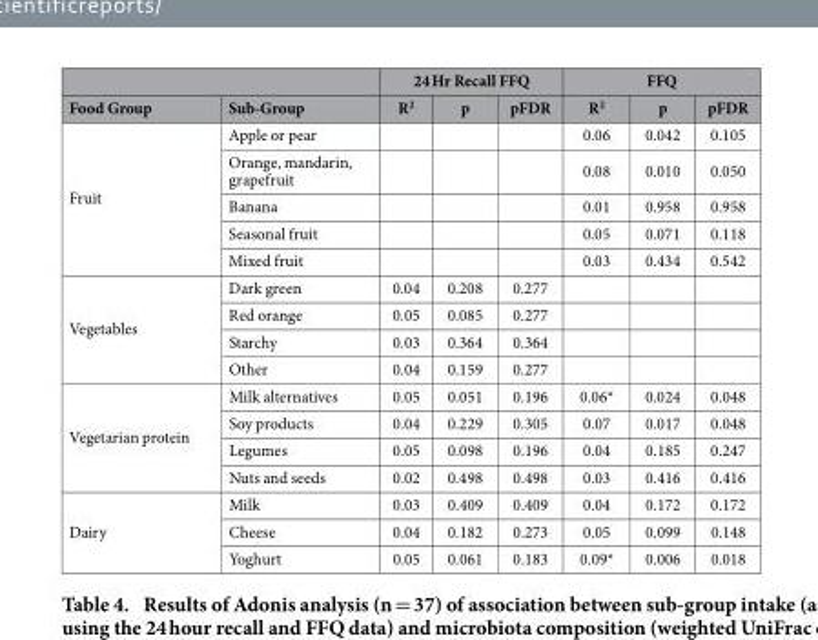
<table><thead><tr><td rowspan="2">Food Group</td><td rowspan="2">Sub-Group</td><td colspan="3">24 Hr Recall FFQ</td><td colspan="3">FFQ</td></tr><tr><td>R<sup>2</sup></td><td>p</td><td>pFDR</td><td>R<sup>2</sup></td><td>p</td><td>pFDR</td></tr></thead><tbody><tr><td rowspan="5">Fruit</td><td>Apple or pear</td><td></td><td></td><td></td><td>0.06</td><td>0.042</td><td>0.105</td></tr><tr><td>Orange, mandarin, grapefruit</td><td></td><td></td><td></td><td>0.08</td><td>0.010</td><td>0.050</td></tr><tr><td>Banana</td><td></td><td></td><td></td><td>0.01</td><td>0.958</td><td>0.958</td></tr><tr><td>Seasonal fruit</td><td></td><td></td><td></td><td>0.05</td><td>0.071</td><td>0.118</td></tr><tr><td>Mixed fruit</td><td></td><td></td><td></td><td>0.03</td><td>0.434</td><td>0.542</td></tr><tr><td rowspan="4">Vegetables</td><td>Dark green</td><td>0.04</td><td>0.208</td><td>0.277</td><td></td><td></td><td></td></tr><tr><td>Red orange</td><td>0.05</td><td>0.085</td><td>0.277</td><td></td><td></td><td></td></tr><tr><td>Starchy</td><td>0.03</td><td>0.364</td><td>0.364</td><td></td><td></td><td></td></tr><tr><td>Other</td><td>0.04</td><td>0.159</td><td>0.277</td><td></td><td></td><td></td></tr><tr><td rowspan="4">Vegetarian protein</td><td>Milk alternatives</td><td>0.05</td><td>0.051</td><td>0.196</td><td>0.06*</td><td>0.024</td><td>0.048</td></tr><tr><td>Soy products</td><td>0.04</td><td>0.229</td><td>0.305</td><td>0.07</td><td>0.017</td><td>0.048</td></tr><tr><td>Legumes</td><td>0.05</td><td>0.098</td><td>0.196</td><td>0.04</td><td>0.185</td><td>0.247</td></tr><tr><td>Nuts and seeds</td><td>0.02</td><td>0.498</td><td>0.498</td><td>0.03</td><td>0.416</td><td>0.416</td></tr><tr><td rowspan="3">Dairy</td><td>Milk</td><td>0.03</td><td>0.409</td><td>0.409</td><td>0.04</td><td>0.172</td><td>0.172</td></tr><tr><td>Cheese</td><td>0.04</td><td>0.182</td><td>0.273</td><td>0.05</td><td>0.099</td><td>0.148</td></tr><tr><td>Yoghurt</td><td>0.05</td><td>0.061</td><td>0.183</td><td>0.09*</td><td>0.006</td><td>0.018</td></tr></tbody></table>